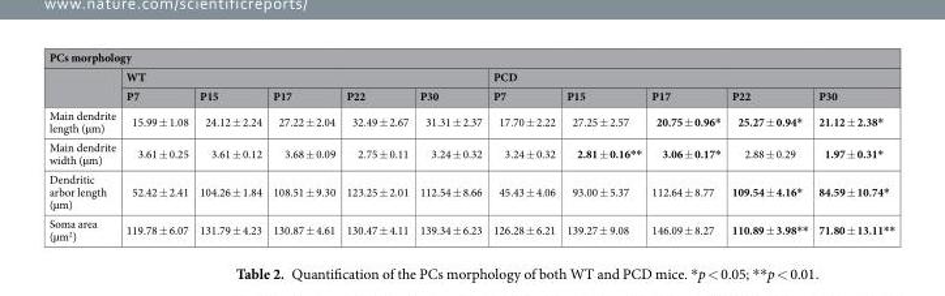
<table><thead><tr><td colspan="11">PCs morphology</td></tr><tr><td rowspan="2"></td><td colspan="5">WT</td><td colspan="5">PCD</td></tr><tr><td>P7</td><td>P15</td><td>P17</td><td>P22</td><td>P30</td><td>P7</td><td>P15</td><td>P17</td><td>P22</td><td>P30</td></tr></thead><tbody><tr><td>Main dendrite length (µm)</td><td>15.99 ± 1.08</td><td>24.12 ± 2.24</td><td>27.22 ± 2.04</td><td>32.49 ± 2.67</td><td>31.31 ± 2.37</td><td>17.70 ± 2.22</td><td>27.25 ± 2.57</td><td>20.75 ± 0.96*</td><td>25.27 ± 0.94*</td><td>21.12 ± 2.38*</td></tr><tr><td>Main dendrite width (µm)</td><td>3.61 ± 0.25</td><td>3.61 ± 0.12</td><td>3.68 ± 0.09</td><td>2.75 ± 0.11</td><td>3.24 ± 0.32</td><td>3.24 ± 0.32</td><td>2.81 ± 0.16**</td><td>3.06 ± 0.17*</td><td>2.88 ± 0.29</td><td>1.97 ± 0.31*</td></tr><tr><td>Dendritic arbor length (µm)</td><td>52.42 ± 2.41</td><td>104.26 ± 1.84</td><td>108.51 ± 9.30</td><td>123.25 ± 2.01</td><td>112.54 ± 8.66</td><td>45.43 ± 4.06</td><td>93.00 ± 5.37</td><td>112.64 ± 8.77</td><td>109.54 ± 4.16*</td><td>84.59 ± 10.74*</td></tr><tr><td>Soma area (µm<sup>2</sup>)</td><td>119.78 ± 6.07</td><td>131.79 ± 4.23</td><td>130.87 ± 4.61</td><td>130.47 ± 4.11</td><td>139.34 ± 6.23</td><td>126.28 ± 6.21</td><td>139.27 ± 9.08</td><td>146.09 ± 8.27</td><td>110.89 ± 3.98**</td><td>71.80 ± 13.11**</td></tr></tbody></table>